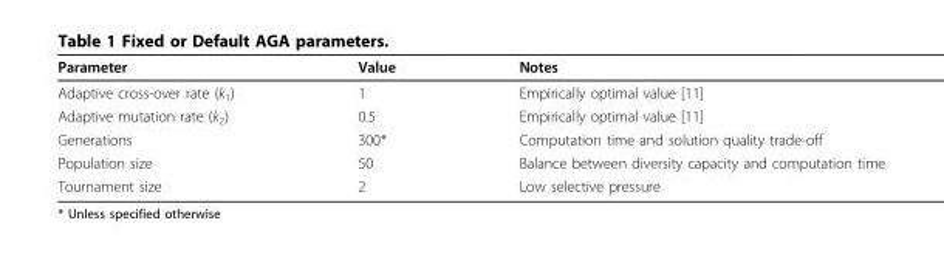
<table><thead><tr><td>Parameter</td><td>Value</td><td>Notes</td></tr></thead><tbody><tr><td>Adaptive cross-over rate (k<sub>1</sub>)</td><td>1</td><td>Empirically optimal value [11]</td></tr><tr><td>Adaptive mutation rate (k<sub>2</sub>)</td><td>0.5</td><td>Empirically optimal value [11]</td></tr><tr><td>Generations</td><td>300*</td><td>Computation time and solution quality trade-off</td></tr><tr><td>Population size</td><td>50</td><td>Balance between diversity capacity and computation time</td></tr><tr><td>Tournament size</td><td>2</td><td>Low selective pressure</td></tr></tbody></table>